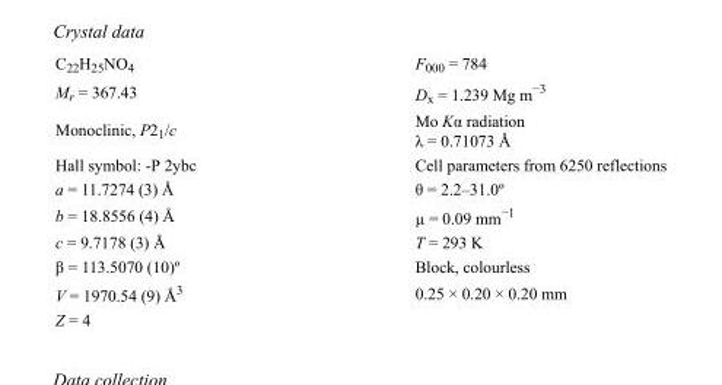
<table><tbody><tr><td>C<sub>22</sub>H<sub>25</sub>NO<sub>4</sub></td><td>F000 = 784</td></tr><tr><td>M<sub>r</sub> = 367.43</td><td>D<sub>x</sub> = 1.239 Mg m<sup>−3</sup></td></tr><tr><td>Monoclinic, P2<sub>1</sub>/c</td><td>Mo Kα radiation λ = 0.71073 Å</td></tr><tr><td>Hall symbol: -P 2ybc</td><td>Cell parameters from 6250 reflections</td></tr><tr><td>a = 11.7274 (3) Å</td><td>θ = 2.2–31.0º</td></tr><tr><td>b = 18.8556 (4) Å</td><td>µ = 0.09 mm<sup>−1</sup></td></tr><tr><td>c = 9.7178 (3) Å</td><td>T = 293 K</td></tr><tr><td>β = 113.5070 (10)º</td><td>Block, colourless</td></tr><tr><td>V = 1970.54 (9) Å<sup>3</sup></td><td>0.25 × 0.20 × 0.20 mm</td></tr><tr><td>Z = 4</td><td></td></tr></tbody></table>